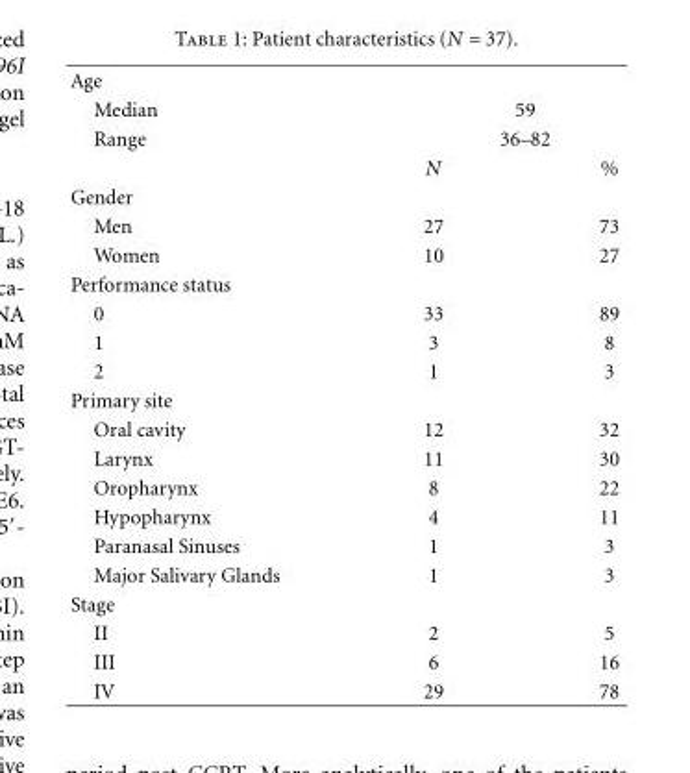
<table><tbody><tr><td colspan="3">Age</td></tr><tr><td>Median</td><td colspan="2">59</td></tr><tr><td rowspan="2">Range</td><td colspan="2">36–82</td></tr><tr><td>N</td><td>%</td></tr><tr><td colspan="3">Gender</td></tr><tr><td>Men</td><td>27</td><td>73</td></tr><tr><td>Women</td><td>10</td><td>27</td></tr><tr><td colspan="3">Performance status</td></tr><tr><td>0</td><td>33</td><td>89</td></tr><tr><td>1</td><td>3</td><td>8</td></tr><tr><td>2</td><td>1</td><td>3</td></tr><tr><td colspan="3">Primary site</td></tr><tr><td>Oral cavity</td><td>12</td><td>32</td></tr><tr><td>Larynx</td><td>11</td><td>30</td></tr><tr><td>Oropharynx</td><td>8</td><td>22</td></tr><tr><td>Hypopharynx</td><td>4</td><td>11</td></tr><tr><td>Paranasal Sinuses</td><td>1</td><td>3</td></tr><tr><td>Major Salivary Glands</td><td>1</td><td>3</td></tr><tr><td colspan="3">Stage</td></tr><tr><td>II</td><td>2</td><td>5</td></tr><tr><td>III</td><td>6</td><td>16</td></tr><tr><td>IV</td><td>29</td><td>78</td></tr></tbody></table>